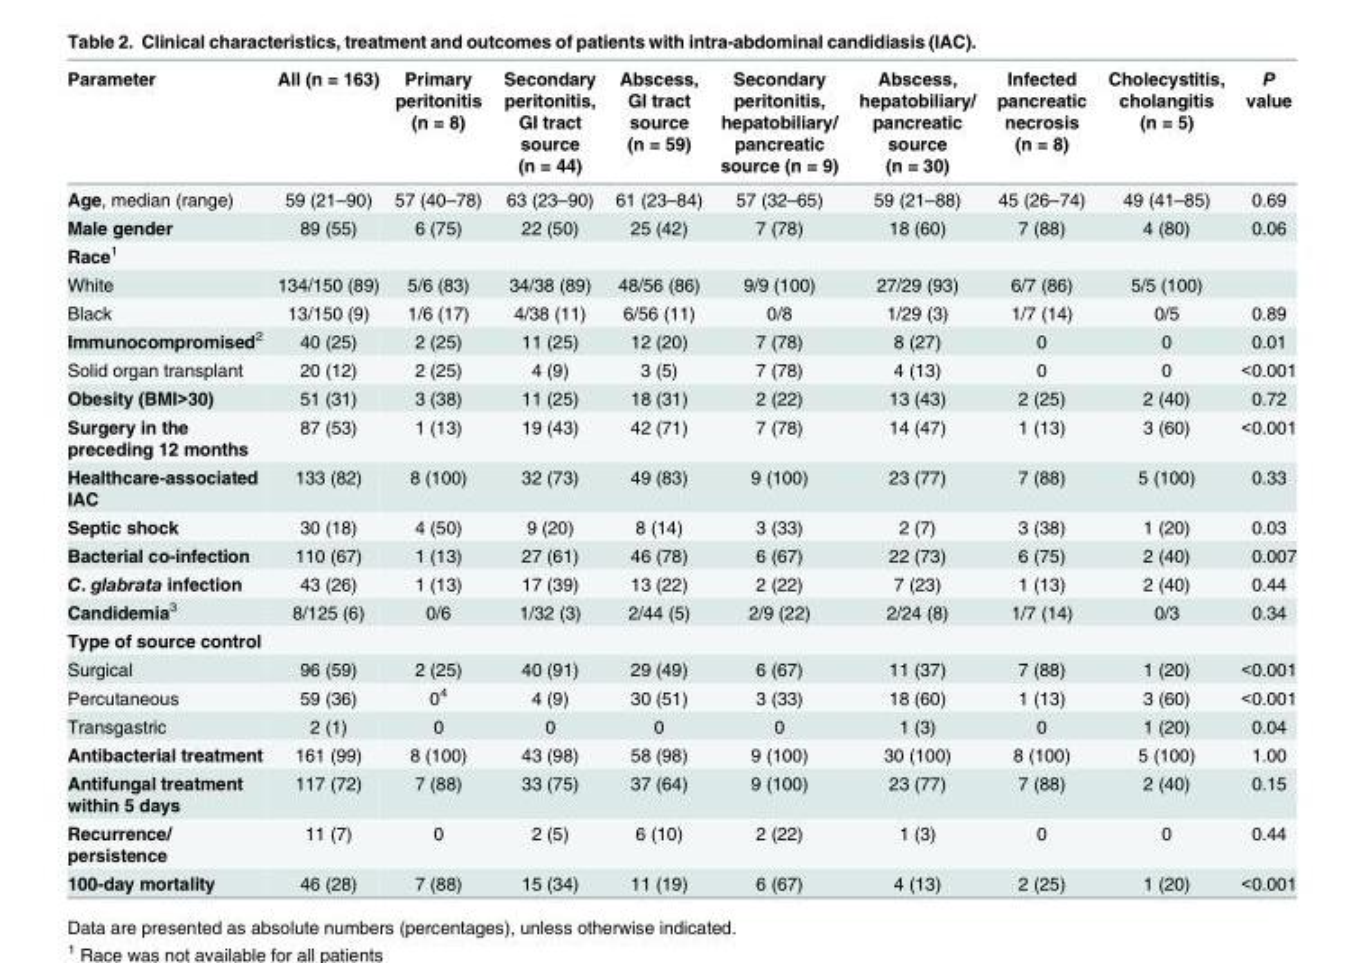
<table><thead><tr><td>Parameter</td><td>All (n = 163)</td><td>Primary peritonitis (n = 8)</td><td>Secondary peritonitis, GI tract source (n = 44)</td><td>Abscess, GI tract source (n = 59)</td><td>Secondary peritonitis, hepatobiliary/ pancreatic source (n = 9)</td><td>Abscess, hepatobiliary/ pancreatic source (n = 30)</td><td>Infected pancreatic necrosis (n = 8)</td><td>Cholecystitis, cholangitis (n = 5)</td><td>P value</td></tr></thead><tbody><tr><td>Age, median (range)</td><td>59 (21–90)</td><td>57 (40–78)</td><td>63 (23–90)</td><td>61 (23–84)</td><td>57 (32–65)</td><td>59 (21–88)</td><td>45 (26–74)</td><td>49 (41–85)</td><td>0.69</td></tr><tr><td>Male gender</td><td>89 (55)</td><td>6 (75)</td><td>22 (50)</td><td>25 (42)</td><td>7 (78)</td><td>18 (60)</td><td>7 (88)</td><td>4 (80)</td><td>0.06</td></tr><tr><td colspan="10">Race<sup>1</sup></td></tr><tr><td>White</td><td>134/150 (89)</td><td>5/6 (83)</td><td>34/38 (89)</td><td>48/56 (86)</td><td>9/9 (100)</td><td>27/29 (93)</td><td>6/7 (86)</td><td>5/5 (100)</td><td></td></tr><tr><td>Black</td><td>13/150 (9)</td><td>1/6 (17)</td><td>4/38 (11)</td><td>6/56 (11)</td><td>0/8</td><td>1/29 (3)</td><td>1/7 (14)</td><td>0/5</td><td>0.89</td></tr><tr><td>Immunocompromised<sup>2</sup></td><td>40 (25)</td><td>2 (25)</td><td>11 (25)</td><td>12 (20)</td><td>7 (78)</td><td>8 (27)</td><td>0</td><td>0</td><td>0.01</td></tr><tr><td>Solid organ transplant</td><td>20 (12)</td><td>2 (25)</td><td>4 (9)</td><td>3 (5)</td><td>7 (78)</td><td>4 (13)</td><td>0</td><td>0</td><td>&lt;0.001</td></tr><tr><td>Obesity (BMI&gt;30)</td><td>51 (31)</td><td>3 (38)</td><td>11 (25)</td><td>18 (31)</td><td>2 (22)</td><td>13 (43)</td><td>2 (25)</td><td>2 (40)</td><td>0.72</td></tr><tr><td>Surgery in the preceding 12 months</td><td>87 (53)</td><td>1 (13)</td><td>19 (43)</td><td>42 (71)</td><td>7 (78)</td><td>14 (47)</td><td>1 (13)</td><td>3 (60)</td><td>&lt;0.001</td></tr><tr><td>Healthcare-associated IAC</td><td>133 (82)</td><td>8 (100)</td><td>32 (73)</td><td>49 (83)</td><td>9 (100)</td><td>23 (77)</td><td>7 (88)</td><td>5 (100)</td><td>0.33</td></tr><tr><td>Septic shock</td><td>30 (18)</td><td>4 (50)</td><td>9 (20)</td><td>8 (14)</td><td>3 (33)</td><td>2 (7)</td><td>3 (38)</td><td>1 (20)</td><td>0.03</td></tr><tr><td>Bacterial co-infection</td><td>110 (67)</td><td>1 (13)</td><td>27 (61)</td><td>46 (78)</td><td>6 (67)</td><td>22 (73)</td><td>6 (75)</td><td>2 (40)</td><td>0.007</td></tr><tr><td>C. glabrata infection</td><td>43 (26)</td><td>1 (13)</td><td>17 (39)</td><td>13 (22)</td><td>2 (22)</td><td>7 (23)</td><td>1 (13)</td><td>2 (40)</td><td>0.44</td></tr><tr><td>Candidemia<sup>3</sup></td><td>8/125 (6)</td><td>0/6</td><td>1/32 (3)</td><td>2/44 (5)</td><td>2/9 (22)</td><td>2/24 (8)</td><td>1/7 (14)</td><td>0/3</td><td>0.34</td></tr><tr><td colspan="10">Type of source control</td></tr><tr><td>Surgical</td><td>96 (59)</td><td>2 (25)</td><td>40 (91)</td><td>29 (49)</td><td>6 (67)</td><td>11 (37)</td><td>7 (88)</td><td>1 (20)</td><td>&lt;0.001</td></tr><tr><td>Percutaneous</td><td>59 (36)</td><td>0<sup>4</sup></td><td>4 (9)</td><td>30 (51)</td><td>3 (33)</td><td>18 (60)</td><td>1 (13)</td><td>3 (60)</td><td>&lt;0.001</td></tr><tr><td>Transgastric</td><td>2 (1)</td><td>0</td><td>0</td><td>0</td><td>0</td><td>1 (3)</td><td>0</td><td>1 (20)</td><td>0.04</td></tr><tr><td>Antibacterial treatment</td><td>161 (99)</td><td>8 (100)</td><td>43 (98)</td><td>58 (98)</td><td>9 (100)</td><td>30 (100)</td><td>8 (100)</td><td>5 (100)</td><td>1.00</td></tr><tr><td>Antifungal treatment within 5 days</td><td>117 (72)</td><td>7 (88)</td><td>33 (75)</td><td>37 (64)</td><td>9 (100)</td><td>23 (77)</td><td>7 (88)</td><td>2 (40)</td><td>0.15</td></tr><tr><td>Recurrence/ persistence</td><td>11 (7)</td><td>0</td><td>2 (5)</td><td>6 (10)</td><td>2 (22)</td><td>1 (3)</td><td>0</td><td>0</td><td>0.44</td></tr><tr><td>100-day mortality</td><td>46 (28)</td><td>7 (88)</td><td>15 (34)</td><td>11 (19)</td><td>6 (67)</td><td>4 (13)</td><td>2 (25)</td><td>1 (20)</td><td>&lt;0.001</td></tr></tbody></table>